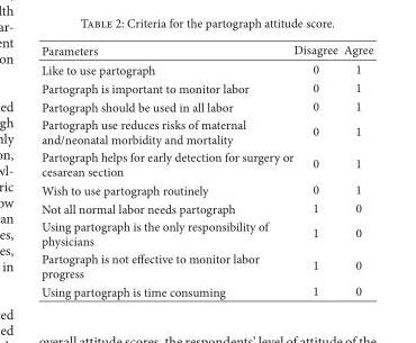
<table><thead><tr><td>Parameters</td><td>Disagree</td><td>Agree</td></tr></thead><tbody><tr><td>Like to use partograph</td><td>0</td><td>1</td></tr><tr><td>Partograph is important to monitor labor</td><td>0</td><td>1</td></tr><tr><td>Partograph should be used in all labor</td><td>0</td><td>1</td></tr><tr><td>Partograph use reduces risks of maternal and/neonatal morbidity and mortality</td><td>0</td><td>1</td></tr><tr><td>Partograph helps for early detection for surgery or cesarean section</td><td>0</td><td>1</td></tr><tr><td>Wish to use partograph routinely</td><td>0</td><td>1</td></tr><tr><td>Not all normal labor needs partograph</td><td>1</td><td>0</td></tr><tr><td>Using partograph is the only responsibility of physicians</td><td>1</td><td>0</td></tr><tr><td>Partograph is not effective to monitor labor progress</td><td>1</td><td>0</td></tr><tr><td>Using partograph is time consuming</td><td>1</td><td>0</td></tr></tbody></table>